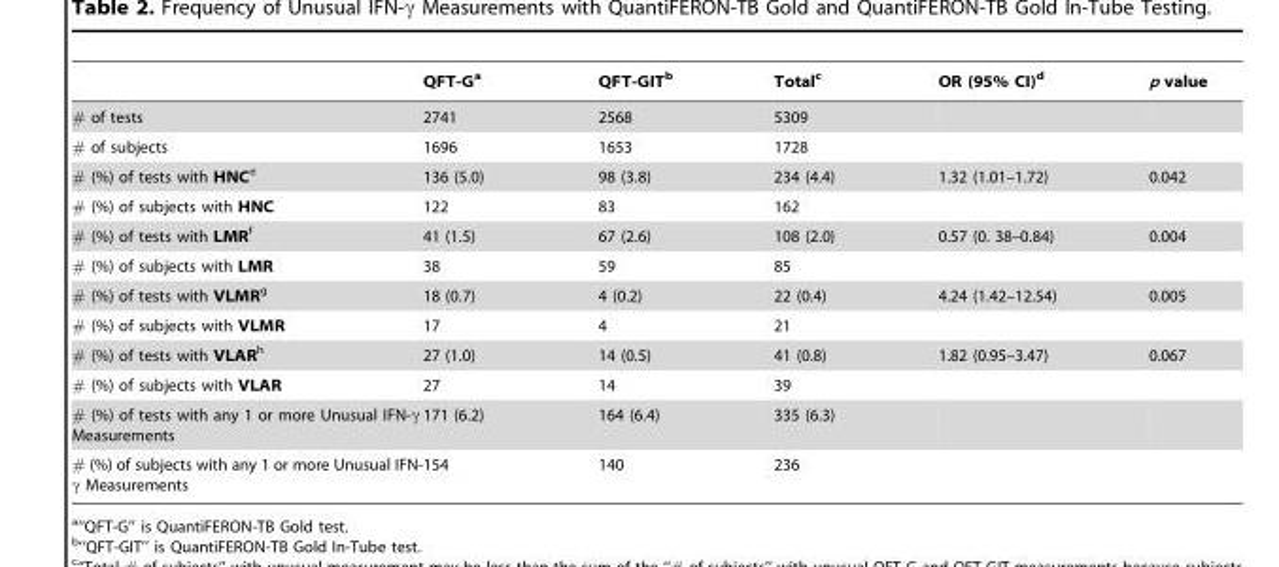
<table><thead><tr><td></td><td>QFT-G<sup>a</sup></td><td>QFT-GIT<sup>b</sup></td><td>Total<sup>c</sup></td><td>OR (95% CI)<sup>d</sup></td><td>p value</td></tr></thead><tbody><tr><td># of tests</td><td>2741</td><td>2568</td><td>5309</td><td></td><td></td></tr><tr><td># of subjects</td><td>1696</td><td>1653</td><td>1728</td><td></td><td></td></tr><tr><td># (%) of tests with HNCe</td><td>136 (5.0)</td><td>98 (3.8)</td><td>234 (4.4)</td><td>1.32 (1.01–1.72)</td><td>0.042</td></tr><tr><td># (%) of subjects with HNC</td><td>122</td><td>83</td><td>162</td><td></td><td></td></tr><tr><td># (%) of tests with LMRf</td><td>41 (1.5)</td><td>67 (2.6)</td><td>108 (2.0)</td><td>0.57 (0. 38–0.84)</td><td>0.004</td></tr><tr><td># (%) of subjects with LMR</td><td>38</td><td>59</td><td>85</td><td></td><td></td></tr><tr><td># (%) of tests with VLMRg</td><td>18 (0.7)</td><td>4 (0.2)</td><td>22 (0.4)</td><td>4.24 (1.42–12.54)</td><td>0.005</td></tr><tr><td># (%) of subjects with VLMR</td><td>17</td><td>4</td><td>21</td><td></td><td></td></tr><tr><td># (%) of tests with VLARh</td><td>27 (1.0)</td><td>14 (0.5)</td><td>41 (0.8)</td><td>1.82 (0.95–3.47)</td><td>0.067</td></tr><tr><td># (%) of subjects with VLAR</td><td>27</td><td>14</td><td>39</td><td></td><td></td></tr><tr><td># (%) of tests with any 1 or more Unusual IFN-γ Measurements</td><td>171 (6.2)</td><td>164 (6.4)</td><td>335 (6.3)</td><td></td><td></td></tr><tr><td># (%) of subjects with any 1 or more Unusual IFN- γ Measurements</td><td>154</td><td>140</td><td>236</td><td></td><td></td></tr></tbody></table>